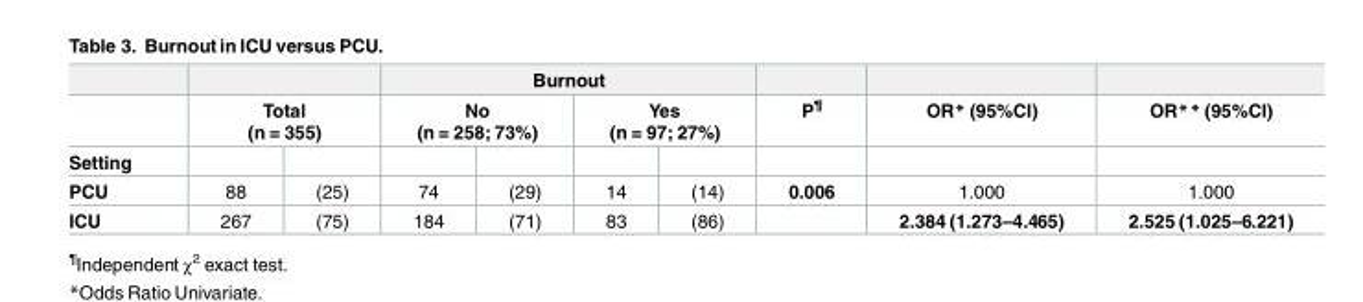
<table><thead><tr><td rowspan="3">Setting</td><td></td><td></td><td colspan="4">Burnout</td><td rowspan="3">P<sup>¶</sup></td><td rowspan="3">OR* (95%CI)</td><td rowspan="3">OR** (95%CI)</td></tr><tr><td colspan="2">Total (n = 355)</td><td colspan="2">No (n = 258; 73%)</td><td colspan="2">Yes (n = 97; 27%)</td></tr><tr><td></td><td></td><td></td><td></td><td></td><td></td></tr></thead><tbody><tr><td>PCU</td><td>88</td><td>(25)</td><td>74</td><td>(29)</td><td>14</td><td>(14)</td><td>0.006</td><td>1.000</td><td>1.000</td></tr><tr><td>ICU</td><td>267</td><td>(75)</td><td>184</td><td>(71)</td><td>83</td><td>(86)</td><td></td><td>2.384 (1.273–4.465)</td><td>2.525 (1.025–6.221)</td></tr></tbody></table>